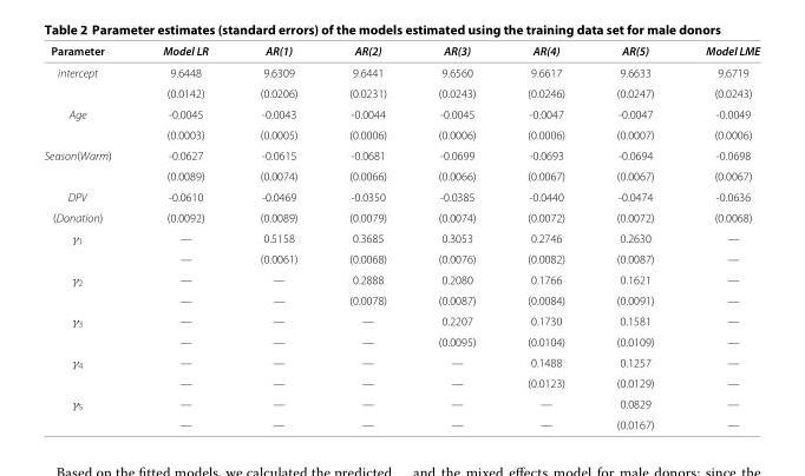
<table><thead><tr><td>Parameter</td><td>Model LR</td><td>AR(1)</td><td>AR(2)</td><td>AR(3)</td><td>AR(4)</td><td>AR(5)</td><td>Model LME</td></tr></thead><tbody><tr><td rowspan="2">intercept</td><td>9.6448</td><td>9.6309</td><td>9.6441</td><td>9.6560</td><td>9.6617</td><td>9.6633</td><td>9.6719</td></tr><tr><td>(0.0142)</td><td>(0.0206)</td><td>(0.0231)</td><td>(0.0243)</td><td>(0.0246)</td><td>(0.0247)</td><td>(0.0243)</td></tr><tr><td rowspan="2">Age</td><td>-0.0045</td><td>-0.0043</td><td>-0.0044</td><td>-0.0045</td><td>-0.0047</td><td>-0.0047</td><td>-0.0049</td></tr><tr><td>(0.0003)</td><td>(0.0005)</td><td>(0.0006)</td><td>(0.0006)</td><td>(0.0006)</td><td>(0.0007)</td><td>(0.0006)</td></tr><tr><td rowspan="2">Season(Warm)</td><td>-0.0627</td><td>-0.0615</td><td>-0.0681</td><td>-0.0699</td><td>-0.0693</td><td>-0.0694</td><td>-0.0698</td></tr><tr><td>(0.0089)</td><td>(0.0074)</td><td>(0.0066)</td><td>(0.0066)</td><td>(0.0067)</td><td>(0.0067)</td><td>(0.0067)</td></tr><tr><td>DPV</td><td>-0.0610</td><td>-0.0469</td><td>-0.0350</td><td>-0.0385</td><td>-0.0440</td><td>-0.0474</td><td>-0.0636</td></tr><tr><td>(Donation)</td><td>(0.0092)</td><td>(0.0089)</td><td>(0.0079)</td><td>(0.0074)</td><td>(0.0072)</td><td>(0.0072)</td><td>(0.0068)</td></tr><tr><td rowspan="2">γ<sub>1</sub></td><td>—</td><td>0.5158</td><td>0.3685</td><td>0.3053</td><td>0.2746</td><td>0.2630</td><td>—</td></tr><tr><td>—</td><td>(0.0061)</td><td>(0.0068)</td><td>(0.0076)</td><td>(0.0082)</td><td>(0.0087)</td><td>—</td></tr><tr><td rowspan="2">γ<sub>2</sub></td><td>—</td><td>—</td><td>0.2888</td><td>0.2080</td><td>0.1766</td><td>0.1621</td><td>—</td></tr><tr><td>—</td><td>—</td><td>(0.0078)</td><td>(0.0087)</td><td>(0.0084)</td><td>(0.0091)</td><td>—</td></tr><tr><td rowspan="2">γ<sub>3</sub></td><td>—</td><td>—</td><td>—</td><td>0.2207</td><td>0.1730</td><td>0.1581</td><td>—</td></tr><tr><td>—</td><td>—</td><td>—</td><td>(0.0095)</td><td>(0.0104)</td><td>(0.0109)</td><td>—</td></tr><tr><td rowspan="2">γ<sub>4</sub></td><td>—</td><td>—</td><td>—</td><td>—</td><td>0.1488</td><td>0.1257</td><td>—</td></tr><tr><td>—</td><td>—</td><td>—</td><td>—</td><td>(0.0123)</td><td>(0.0129)</td><td>—</td></tr><tr><td rowspan="2">γ<sub>5</sub></td><td>—</td><td>—</td><td>—</td><td>—</td><td>—</td><td>0.0829</td><td>—</td></tr><tr><td>—</td><td>—</td><td>—</td><td>—</td><td>—</td><td>(0.0167)</td><td>—</td></tr></tbody></table>